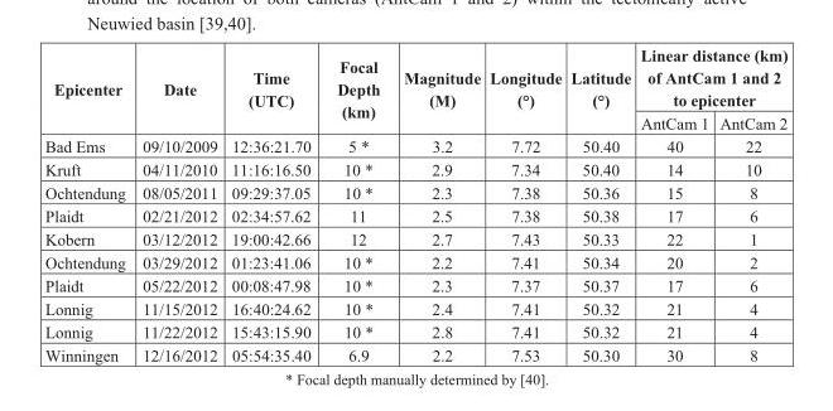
<table><thead><tr><td rowspan="2">Epicenter</td><td rowspan="2">Date</td><td rowspan="2">Time (UTC)</td><td rowspan="2">Focal Depth (km)</td><td rowspan="2">Magnitude (M)</td><td rowspan="2">Longitude (°)</td><td rowspan="2">Latitude (°)</td><td colspan="2">Linear distance (km) of AntCam 1 and 2 to epicenter</td></tr><tr><td>AntCam 1</td><td>AntCam 2</td></tr></thead><tbody><tr><td>Bad Ems</td><td>09/10/2009</td><td>12:36:21.70</td><td>5 *</td><td>3.2</td><td>7.72</td><td>50.40</td><td>40</td><td>22</td></tr><tr><td>Kruft</td><td>04/11/2010</td><td>11:16:16.50</td><td>10 *</td><td>2.9</td><td>7.34</td><td>50.40</td><td>14</td><td>10</td></tr><tr><td>Ochtendung</td><td>08/05/2011</td><td>09:29:37.05</td><td>10 *</td><td>2.3</td><td>7.38</td><td>50.36</td><td>15</td><td>8</td></tr><tr><td>Plaidt</td><td>02/21/2012</td><td>02:34:57.62</td><td>11</td><td>2.5</td><td>7.38</td><td>50.38</td><td>17</td><td>6</td></tr><tr><td>Kobern</td><td>03/12/2012</td><td>19:00:42.66</td><td>12</td><td>2.7</td><td>7.43</td><td>50.33</td><td>22</td><td>1</td></tr><tr><td>Ochtendung</td><td>03/29/2012</td><td>01:23:41.06</td><td>10 *</td><td>2.2</td><td>7.41</td><td>50.34</td><td>20</td><td>2</td></tr><tr><td>Plaidt</td><td>05/22/2012</td><td>00:08:47.98</td><td>10 *</td><td>2.3</td><td>7.37</td><td>50.37</td><td>17</td><td>6</td></tr><tr><td>Lonnig</td><td>11/15/2012</td><td>16:40:24.62</td><td>10 *</td><td>2.4</td><td>7.41</td><td>50.32</td><td>21</td><td>4</td></tr><tr><td>Lonnig</td><td>11/22/2012</td><td>15:43:15.90</td><td>10 *</td><td>2.8</td><td>7.41</td><td>50.32</td><td>21</td><td>4</td></tr><tr><td>Winningen</td><td>12/16/2012</td><td>05:54:35.40</td><td>6.9</td><td>2.2</td><td>7.53</td><td>50.30</td><td>30</td><td>8</td></tr></tbody></table>